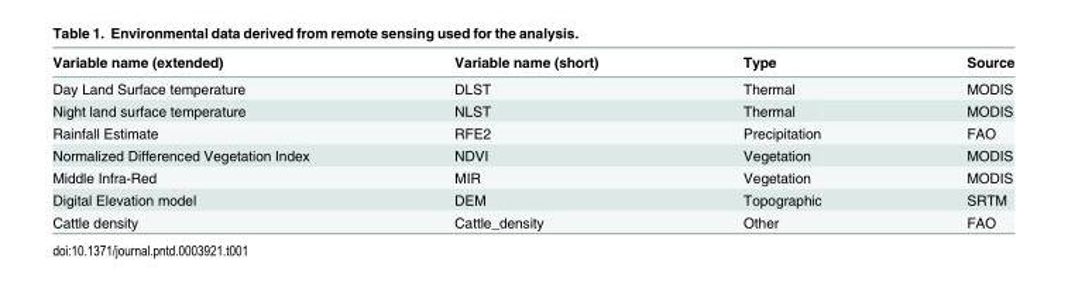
<table><thead><tr><td>Variable name (extended)</td><td>Variable name (short)</td><td>Type</td><td>Source</td></tr></thead><tbody><tr><td>Day Land Surface temperature</td><td>DLST</td><td>Thermal</td><td>MODIS</td></tr><tr><td>Night land surface temperature</td><td>NLST</td><td>Thermal</td><td>MODIS</td></tr><tr><td>Rainfall Estimate</td><td>RFE2</td><td>Precipitation</td><td>FAO</td></tr><tr><td>Normalized Differenced Vegetation Index</td><td>NDVI</td><td>Vegetation</td><td>MODIS</td></tr><tr><td>Middle Infra-Red</td><td>MIR</td><td>Vegetation</td><td>MODIS</td></tr><tr><td>Digital Elevation model</td><td>DEM</td><td>Topographic</td><td>SRTM</td></tr><tr><td>Cattle density</td><td>Cattle_density</td><td>Other</td><td>FAO</td></tr></tbody></table>